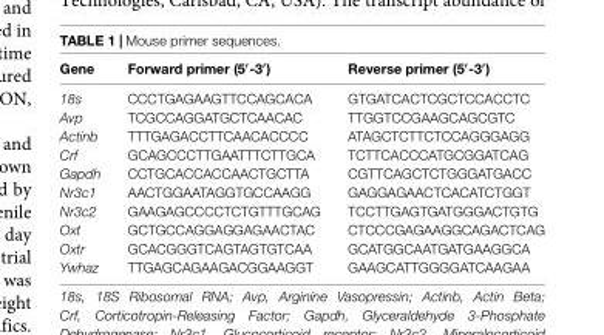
<table><thead><tr><td>Gene</td><td>Forward primer (5′-3′)</td><td>Reverse primer (5′-3′)</td></tr></thead><tbody><tr><td>18s</td><td>CCCTGAGAAGTTCCAGCACA</td><td>GTGATCACTCGCTCCACCTC</td></tr><tr><td>Avp</td><td>TCGCCAGGATGCTCAACAC</td><td>TTGGTCCGAAGCAGCGTC</td></tr><tr><td>Actinb</td><td>TTTGAGACCTTCAACACCCC</td><td>ATAGCTCTTCTCCAGGGAGG</td></tr><tr><td>Crf</td><td>GCAGCCCTTGAATTTCTTGCA</td><td>TCTTCACCCATGCGGATCAG</td></tr><tr><td>Gapdh</td><td>CCTGCACCACCAACTGCTTA</td><td>CGTTCAGCTCTGGGATGACC</td></tr><tr><td>Nr3c1</td><td>AACTGGAATAGGTGCCAAGG</td><td>GAGGAGAACTCACATCTGGT</td></tr><tr><td>Nr3c2</td><td>GAAGAGCCCCTCTGTTTGCAG</td><td>TCCTTGAGTGATGGGACTGTG</td></tr><tr><td>Oxt</td><td>GCTGCCAGGAGGAGAACTAC</td><td>CTCCCGAGAAGGCAGACTCAG</td></tr><tr><td>Oxtr</td><td>GCACGGGTCAGTAGTGTCAA</td><td>GCATGGCAATGATGAAGGCA</td></tr><tr><td>Ywhaz</td><td>TTGAGCAGAAGACGGAAGGT</td><td>GAAGCATTGGGGATCAAGAA</td></tr></tbody></table>